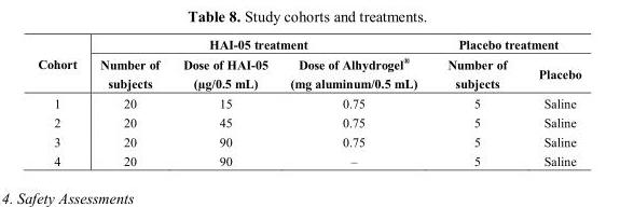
<table><thead><tr><td rowspan="2">Cohort</td><td colspan="3">HAI-05 treatment</td><td colspan="2">Placebo treatment</td></tr><tr><td>Number of subjects</td><td>Dose of HAI-05 (µg/0.5 mL)</td><td>Dose of Alhydrogel<sup>®</sup> (mg aluminum/0.5 mL)</td><td>Number of subjects</td><td>Placebo</td></tr></thead><tbody><tr><td>1</td><td>20</td><td>15</td><td>0.75</td><td>5</td><td>Saline</td></tr><tr><td>2</td><td>20</td><td>45</td><td>0.75</td><td>5</td><td>Saline</td></tr><tr><td>3</td><td>20</td><td>90</td><td>0.75</td><td>5</td><td>Saline</td></tr><tr><td>4</td><td>20</td><td>90</td><td>–</td><td>5</td><td>Saline</td></tr></tbody></table>